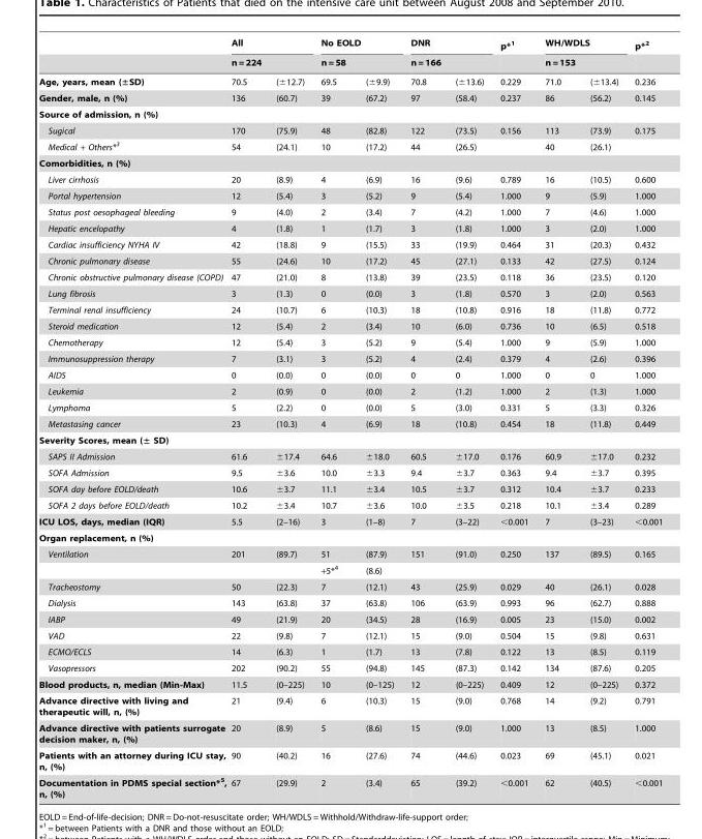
<table><thead><tr><td rowspan="3">Age, years, mean (±SD)</td><td rowspan="2" colspan="2">All n = 224</td><td rowspan="2" colspan="2">No EOLD n = 58</td><td rowspan="2" colspan="2">DNR n = 166</td><td rowspan="3">p*<sup>1</sup> 0.229</td><td rowspan="2" colspan="2">WH/WDLS n = 153</td><td rowspan="3">p*<sup>2</sup> 0.236</td></tr><tr></tr><tr><td>70.5</td><td>(±12.7)</td><td>69.5</td><td>(±9.9)</td><td>70.8</td><td>(±13.6)</td><td>71.0</td><td>(±13.4)</td></tr></thead><tbody><tr><td>Gender, male, n (%)</td><td>136</td><td>(60.7)</td><td>39</td><td>(67.2)</td><td>97</td><td>(58.4)</td><td>0.237</td><td>86</td><td>(56.2)</td><td>0.145</td></tr><tr><td colspan="11">Source of admission, n (%)</td></tr><tr><td>Sugical</td><td>170</td><td>(75.9)</td><td>48</td><td>(82.8)</td><td>122</td><td>(73.5)</td><td>0.156</td><td>113</td><td>(73.9)</td><td>0.175</td></tr><tr><td>Medical + Others*<sup>3</sup></td><td>54</td><td>(24.1)</td><td>10</td><td>(17.2)</td><td>44</td><td>(26.5)</td><td></td><td>40</td><td>(26.1)</td><td></td></tr><tr><td colspan="11">Comorbidities, n (%)</td></tr><tr><td>Liver cirrhosis</td><td>20</td><td>(8.9)</td><td>4</td><td>(6.9)</td><td>16</td><td>(9.6)</td><td>0.789</td><td>16</td><td>(10.5)</td><td>0.600</td></tr><tr><td>Portal hypertension</td><td>12</td><td>(5.4)</td><td>3</td><td>(5.2)</td><td>9</td><td>(5.4)</td><td>1.000</td><td>9</td><td>(5.9)</td><td>1.000</td></tr><tr><td>Status post oesophageal bleeding</td><td>9</td><td>(4.0)</td><td>2</td><td>(3.4)</td><td>7</td><td>(4.2)</td><td>1.000</td><td>7</td><td>(4.6)</td><td>1.000</td></tr><tr><td>Hepatic encelopathy</td><td>4</td><td>(1.8)</td><td>1</td><td>(1.7)</td><td>3</td><td>(1.8)</td><td>1.000</td><td>3</td><td>(2.0)</td><td>1.000</td></tr><tr><td>Cardiac insufficiency NYHA IV</td><td>42</td><td>(18.8)</td><td>9</td><td>(15.5)</td><td>33</td><td>(19.9)</td><td>0.464</td><td>31</td><td>(20.3)</td><td>0.432</td></tr><tr><td>Chronic pulmonary disease</td><td>55</td><td>(24.6)</td><td>10</td><td>(17.2)</td><td>45</td><td>(27.1)</td><td>0.133</td><td>42</td><td>(27.5)</td><td>0.124</td></tr><tr><td>Chronic obstructive pulmonary disease (COPD)</td><td>47</td><td>(21.0)</td><td>8</td><td>(13.8)</td><td>39</td><td>(23.5)</td><td>0.118</td><td>36</td><td>(23.5)</td><td>0.120</td></tr><tr><td>Lung fibrosis</td><td>3</td><td>(1.3)</td><td>0</td><td>(0.0)</td><td>3</td><td>(1.8)</td><td>0.570</td><td>3</td><td>(2.0)</td><td>0.563</td></tr><tr><td>Terminal renal insufficiency</td><td>24</td><td>(10.7)</td><td>6</td><td>(10.3)</td><td>18</td><td>(10.8)</td><td>0.916</td><td>18</td><td>(11.8)</td><td>0.772</td></tr><tr><td>Steroid medication</td><td>12</td><td>(5.4)</td><td>2</td><td>(3.4)</td><td>10</td><td>(6.0)</td><td>0.736</td><td>10</td><td>(6.5)</td><td>0.518</td></tr><tr><td>Chemotherapy</td><td>12</td><td>(5.4)</td><td>3</td><td>(5.2)</td><td>9</td><td>(5.4)</td><td>1.000</td><td>9</td><td>(5.9)</td><td>1.000</td></tr><tr><td>Immunosuppression therapy</td><td>7</td><td>(3.1)</td><td>3</td><td>(5.2)</td><td>4</td><td>(2.4)</td><td>0.379</td><td>4</td><td>(2.6)</td><td>0.396</td></tr><tr><td>AIDS</td><td>0</td><td>(0.0)</td><td>0</td><td>(0.0)</td><td>0</td><td>0</td><td>1.000</td><td>0</td><td>0</td><td>1.000</td></tr><tr><td>Leukemia</td><td>2</td><td>(0.9)</td><td>0</td><td>(0.0)</td><td>2</td><td>(1.2)</td><td>1.000</td><td>2</td><td>(1.3)</td><td>1.000</td></tr><tr><td>Lymphoma</td><td>5</td><td>(2.2)</td><td>0</td><td>(0.0)</td><td>5</td><td>(3.0)</td><td>0.331</td><td>5</td><td>(3.3)</td><td>0.326</td></tr><tr><td>Metastasing cancer</td><td>23</td><td>(10.3)</td><td>4</td><td>(6.9)</td><td>18</td><td>(10.8)</td><td>0.454</td><td>18</td><td>(11.8)</td><td>0.449</td></tr><tr><td colspan="11">Severity Scores, mean (± SD)</td></tr><tr><td>SAPS II Admission</td><td>61.6</td><td>±17.4</td><td>64.6</td><td>±18.0</td><td>60.5</td><td>±17.0</td><td>0.176</td><td>60.9</td><td>±17.0</td><td>0.232</td></tr><tr><td>SOFA Admission</td><td>9.5</td><td>±3.6</td><td>10.0</td><td>±3.3</td><td>9.4</td><td>±3.7</td><td>0.363</td><td>9.4</td><td>±3.7</td><td>0.395</td></tr><tr><td>SOFA day before EOLD/death</td><td>10.6</td><td>±3.7</td><td>11.1</td><td>±3.4</td><td>10.5</td><td>±3.7</td><td>0.312</td><td>10.4</td><td>±3.7</td><td>0.233</td></tr><tr><td>SOFA 2 days before EOLD/death</td><td>10.2</td><td>±3.4</td><td>10.7</td><td>±3.6</td><td>10.0</td><td>±3.5</td><td>0.218</td><td>10.1</td><td>±3.4</td><td>0.289</td></tr><tr><td>ICU LOS, days, median (IQR)</td><td>5.5</td><td>(2–16)</td><td>3</td><td>(1–8)</td><td>7</td><td>(3–22)</td><td>&lt;0.001</td><td>7</td><td>(3–23)</td><td>&lt;0.001</td></tr><tr><td colspan="11">Organ replacement, n (%)</td></tr><tr><td rowspan="2">Ventilation</td><td>201</td><td>(89.7)</td><td>51</td><td>(87.9)</td><td>151</td><td>(91.0)</td><td>0.250</td><td>137</td><td>(89.5)</td><td>0.165</td></tr><tr><td></td><td></td><td>+5*<sup>4</sup></td><td>(8.6)</td><td></td><td></td><td></td><td></td><td></td><td></td></tr><tr><td>Tracheostomy</td><td>50</td><td>(22.3)</td><td>7</td><td>(12.1)</td><td>43</td><td>(25.9)</td><td>0.029</td><td>40</td><td>(26.1)</td><td>0.028</td></tr><tr><td>Dialysis</td><td>143</td><td>(63.8)</td><td>37</td><td>(63.8)</td><td>106</td><td>(63.9)</td><td>0.993</td><td>96</td><td>(62.7)</td><td>0.888</td></tr><tr><td>IABP</td><td>49</td><td>(21.9)</td><td>20</td><td>(34.5)</td><td>28</td><td>(16.9)</td><td>0.005</td><td>23</td><td>(15.0)</td><td>0.002</td></tr><tr><td>VAD</td><td>22</td><td>(9.8)</td><td>7</td><td>(12.1)</td><td>15</td><td>(9.0)</td><td>0.504</td><td>15</td><td>(9.8)</td><td>0.631</td></tr><tr><td>ECMO/ECLS</td><td>14</td><td>(6.3)</td><td>1</td><td>(1.7)</td><td>13</td><td>(7.8)</td><td>0.122</td><td>13</td><td>(8.5)</td><td>0.119</td></tr><tr><td>Vasopressors</td><td>202</td><td>(90.2)</td><td>55</td><td>(94.8)</td><td>145</td><td>(87.3)</td><td>0.142</td><td>134</td><td>(87.6)</td><td>0.205</td></tr><tr><td>Blood products, n, median (Min-Max)</td><td>11.5</td><td>(0–225)</td><td>10</td><td>(0–125)</td><td>12</td><td>(0–225)</td><td>0.409</td><td>12</td><td>(0–225)</td><td>0.372</td></tr><tr><td>Advance directive with living and therapeutic will, n, (%)</td><td>21</td><td>(9.4)</td><td>6</td><td>(10.3)</td><td>15</td><td>(9.0)</td><td>0.768</td><td>14</td><td>(9.2)</td><td>0.791</td></tr><tr><td>Advance directive with patients surrogate decision maker, n, (%)</td><td>20</td><td>(8.9)</td><td>5</td><td>(8.6)</td><td>15</td><td>(9.0)</td><td>1.000</td><td>13</td><td>(8.5)</td><td>1.000</td></tr><tr><td>Patients with an attorney during ICU stay, n, (%)</td><td>90</td><td>(40.2)</td><td>16</td><td>(27.6)</td><td>74</td><td>(44.6)</td><td>0.023</td><td>69</td><td>(45.1)</td><td>0.021</td></tr><tr><td>Documentation in PDMS special section*<sup>5</sup>, n, (%)</td><td>67</td><td>(29.9)</td><td>2</td><td>(3.4)</td><td>65</td><td>(39.2)</td><td>&lt;0.001</td><td>62</td><td>(40.5)</td><td>&lt;0.001</td></tr></tbody></table>